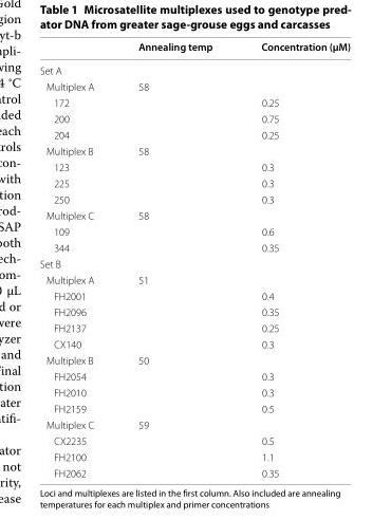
<table><thead><tr><td></td><td>Annealing temp</td><td>Concentration (µM)</td></tr></thead><tbody><tr><td colspan="3">Set A</td></tr><tr><td>Multiplex A</td><td>58</td><td></td></tr><tr><td>172</td><td></td><td>0.25</td></tr><tr><td>200</td><td></td><td>0.75</td></tr><tr><td>204</td><td></td><td>0.25</td></tr><tr><td>Multiplex B</td><td>58</td><td></td></tr><tr><td>123</td><td></td><td>0.3</td></tr><tr><td>225</td><td></td><td>0.3</td></tr><tr><td>250</td><td></td><td>0.3</td></tr><tr><td>Multiplex C</td><td>58</td><td></td></tr><tr><td>109</td><td></td><td>0.6</td></tr><tr><td>344</td><td></td><td>0.35</td></tr><tr><td colspan="3">Set B</td></tr><tr><td>Multiplex A</td><td>51</td><td></td></tr><tr><td>FH2001</td><td></td><td>0.4</td></tr><tr><td>FH2096</td><td></td><td>0.35</td></tr><tr><td>FH2137</td><td></td><td>0.25</td></tr><tr><td>CX140</td><td></td><td>0.3</td></tr><tr><td>Multiplex B</td><td>50</td><td></td></tr><tr><td>FH2054</td><td></td><td>0.3</td></tr><tr><td>FH2010</td><td></td><td>0.3</td></tr><tr><td>FH2159</td><td></td><td>0.5</td></tr><tr><td>Multiplex C</td><td>59</td><td></td></tr><tr><td>CX2235</td><td></td><td>0.5</td></tr><tr><td>FH2100</td><td></td><td>1.1</td></tr><tr><td>FH2062</td><td></td><td>0.35</td></tr></tbody></table>